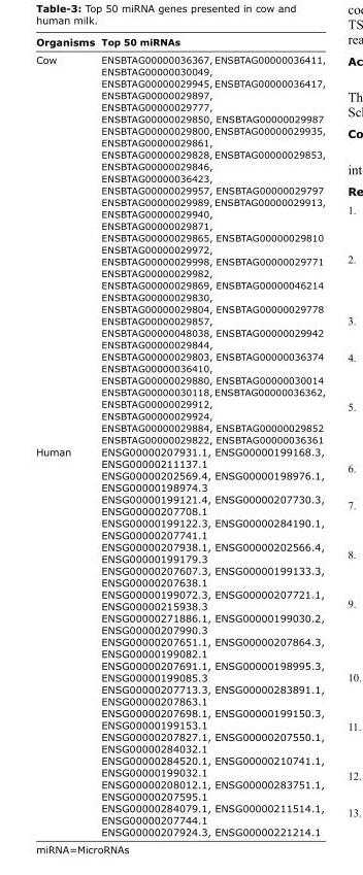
<table><thead><tr><td>Organisms</td><td>Top 50 miRNAs</td></tr></thead><tbody><tr><td>Cow</td><td>ENSBTAG00000036367, ENSBTAG00000036411, ENSBTAG00000030049, ENSBTAG00000029945, ENSBTAG00000036417, ENSBTAG00000029897, ENSBTAG00000029777, ENSBTAG00000029850, ENSBTAG00000029987 ENSBTAG00000029800, ENSBTAG00000029935, ENSBTAG00000029861, ENSBTAG00000029828, ENSBTAG00000029853, ENSBTAG00000029846, ENSBTAG00000036423, ENSBTAG00000029957, ENSBTAG00000029797 ENSBTAG00000029989, ENSBTAG00000029913, ENSBTAG00000029940, ENSBTAG00000029871, ENSBTAG00000029865, ENSBTAG00000029810 ENSBTAG00000029972, ENSBTAG00000029998, ENSBTAG00000029771 ENSBTAG00000029982, ENSBTAG00000029869, ENSBTAG00000046214 ENSBTAG00000029830, ENSBTAG00000029804, ENSBTAG00000029778 ENSBTAG00000029857, ENSBTAG00000048038, ENSBTAG00000029942 ENSBTAG00000029844, ENSBTAG00000029803, ENSBTAG00000036374 ENSBTAG00000036410, ENSBTAG00000029880, ENSBTAG00000030014 ENSBTAG00000030118, ENSBTAG00000036362, ENSBTAG00000029912, ENSBTAG00000029924, ENSBTAG00000029884, ENSBTAG00000029852 ENSBTAG00000029822, ENSBTAG00000036361</td></tr><tr><td>Human</td><td>ENSG00000207931.1, ENSG00000199168.3, ENSG00000211137.1 ENSG00000202569.4, ENSG00000198976.1, ENSG00000198974.3 ENSG00000199121.4, ENSG00000207730.3, ENSG00000207708.1 ENSG00000199122.3, ENSG00000284190.1, ENSG00000207741.1 ENSG00000207938.1, ENSG00000202566.4, ENSG00000199179.3 ENSG00000207607.3, ENSG00000199133.3, ENSG00000207638.1 ENSG00000199072.3, ENSG00000207721.1, ENSG00000215938.3 ENSG00000271886.1, ENSG00000199030.2, ENSG00000207990.3 ENSG00000207651.1, ENSG00000207864.3, ENSG00000199082.1 ENSG00000207691.1, ENSG00000198995.3, ENSG00000199085.3 ENSG00000207713.3, ENSG00000283891.1, ENSG00000207863.1 ENSG00000207698.1, ENSG00000199150.3, ENSG00000199153.1 ENSG00000207827.1, ENSG00000207550.1, ENSG00000284032.1 ENSG00000284520.1, ENSG00000210741.1, ENSG00000199032.1 ENSG00000208012.1, ENSG00000283751.1, ENSG00000207595.1 ENSG00000284079.1, ENSG00000211514.1, ENSG00000207744.1 ENSG00000207924.3, ENSG00000221214.1</td></tr></tbody></table>